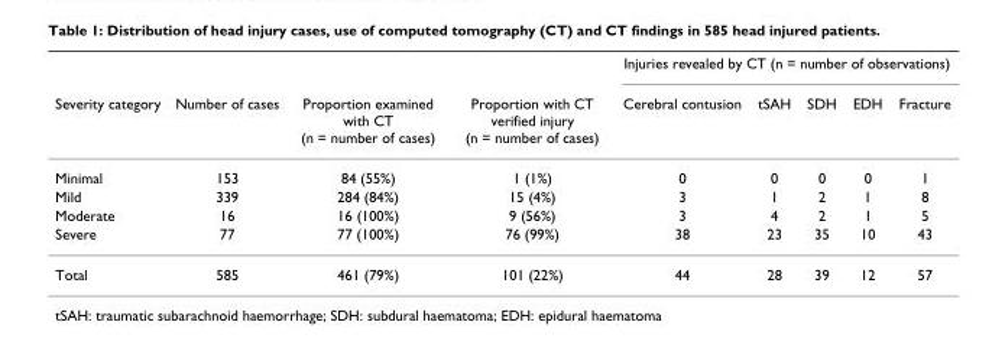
<table><thead><tr><td rowspan="2">Severity category</td><td rowspan="2">Number of cases</td><td rowspan="2">Proportion examined with CT (n = number of cases)</td><td rowspan="2">Proportion with CT verified injury (n = number of cases)</td><td colspan="5">Injuries revealed by CT (n = number of observations)</td></tr><tr><td>Cerebral contusion</td><td>tSAH</td><td>SDH</td><td>EDH</td><td>Fracture</td></tr></thead><tbody><tr><td>Minimal</td><td>153</td><td>84 (55%)</td><td>1 (1%)</td><td>0</td><td>0</td><td>0</td><td>0</td><td>1</td></tr><tr><td>Mild</td><td>339</td><td>284 (84%)</td><td>15 (4%)</td><td>3</td><td>1</td><td>2</td><td>1</td><td>8</td></tr><tr><td>Moderate</td><td>16</td><td>16 (100%)</td><td>9 (56%)</td><td>3</td><td>4</td><td>2</td><td>1</td><td>5</td></tr><tr><td>Severe</td><td>77</td><td>77 (100%)</td><td>76 (99%)</td><td>38</td><td>23</td><td>35</td><td>10</td><td>43</td></tr><tr><td>Total</td><td>585</td><td>461 (79%)</td><td>101 (22%)</td><td>44</td><td>28</td><td>39</td><td>12</td><td>57</td></tr></tbody></table>